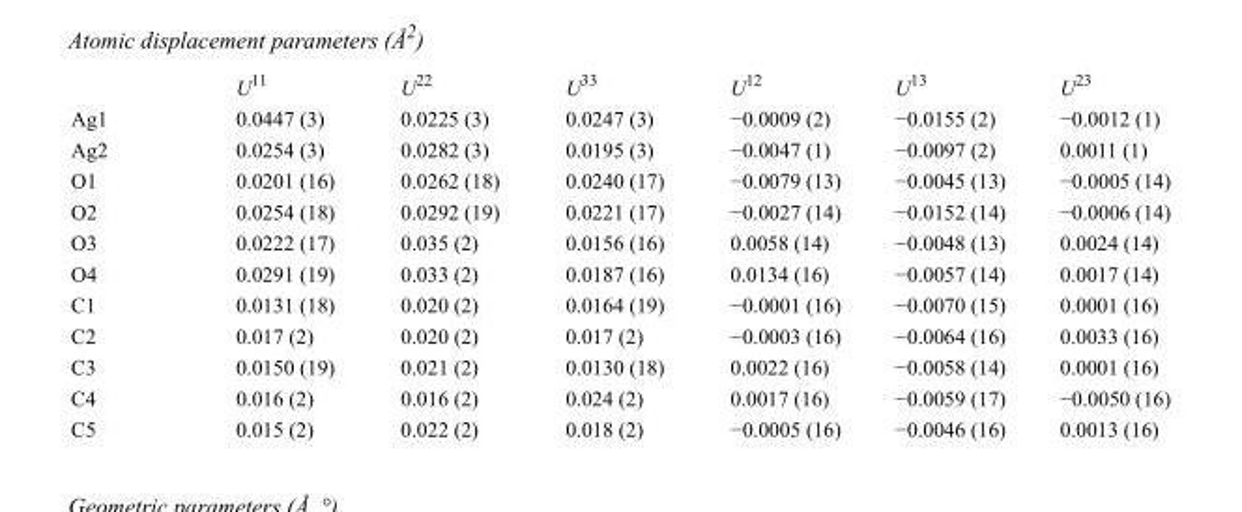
<table><thead><tr><td></td><td>U<sup>11</sup></td><td>U<sup>22</sup></td><td>U<sup>33</sup></td><td>U<sup>12</sup></td><td>U<sup>13</sup></td><td>U<sup>23</sup></td></tr></thead><tbody><tr><td>Ag1</td><td>0.0447 (3)</td><td>0.0225 (3)</td><td>0.0247 (3)</td><td>−0.0009 (2)</td><td>−0.0155 (2)</td><td>−0.0012 (1)</td></tr><tr><td>Ag2</td><td>0.0254 (3)</td><td>0.0282 (3)</td><td>0.0195 (3)</td><td>−0.0047 (1)</td><td>−0.0097 (2)</td><td>0.0011 (1)</td></tr><tr><td>O1</td><td>0.0201 (16)</td><td>0.0262 (18)</td><td>0.0240 (17)</td><td>−0.0079 (13)</td><td>−0.0045 (13)</td><td>−0.0005 (14)</td></tr><tr><td>O2</td><td>0.0254 (18)</td><td>0.0292 (19)</td><td>0.0221 (17)</td><td>−0.0027 (14)</td><td>−0.0152 (14)</td><td>−0.0006 (14)</td></tr><tr><td>O3</td><td>0.0222 (17)</td><td>0.035 (2)</td><td>0.0156 (16)</td><td>0.0058 (14)</td><td>−0.0048 (13)</td><td>0.0024 (14)</td></tr><tr><td>O4</td><td>0.0291 (19)</td><td>0.033 (2)</td><td>0.0187 (16)</td><td>0.0134 (16)</td><td>−0.0057 (14)</td><td>0.0017 (14)</td></tr><tr><td>C1</td><td>0.0131 (18)</td><td>0.020 (2)</td><td>0.0164 (19)</td><td>−0.0001 (16)</td><td>−0.0070 (15)</td><td>0.0001 (16)</td></tr><tr><td>C2</td><td>0.017 (2)</td><td>0.020 (2)</td><td>0.017 (2)</td><td>−0.0003 (16)</td><td>−0.0064 (16)</td><td>0.0033 (16)</td></tr><tr><td>C3</td><td>0.0150 (19)</td><td>0.021 (2)</td><td>0.0130 (18)</td><td>0.0022 (16)</td><td>−0.0058 (14)</td><td>0.0001 (16)</td></tr><tr><td>C4</td><td>0.016 (2)</td><td>0.016 (2)</td><td>0.024 (2)</td><td>0.0017 (16)</td><td>−0.0059 (17)</td><td>−0.0050 (16)</td></tr><tr><td>C5</td><td>0.015 (2)</td><td>0.022 (2)</td><td>0.018 (2)</td><td>−0.0005 (16)</td><td>−0.0046 (16)</td><td>0.0013 (16)</td></tr></tbody></table>